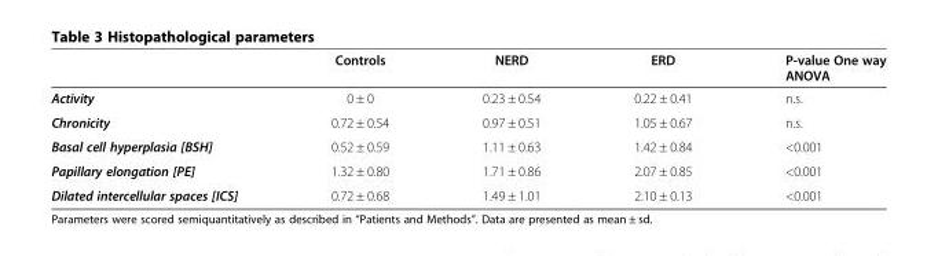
<table><thead><tr><td></td><td>Controls</td><td>NERD</td><td>ERD</td><td>P-value One way ANOVA</td></tr></thead><tbody><tr><td>Activity</td><td>0 ± 0</td><td>0.23 ± 0.54</td><td>0.22 ± 0.41</td><td>n.s.</td></tr><tr><td>Chronicity</td><td>0.72 ± 0.54</td><td>0.97 ± 0.51</td><td>1.05 ± 0.67</td><td>n.s.</td></tr><tr><td>Basal cell hyperplasia [BSH]</td><td>0.52 ± 0.59</td><td>1.11 ± 0.63</td><td>1.42 ± 0.84</td><td>&lt;0.001</td></tr><tr><td>Papillary elongation [PE]</td><td>1.32 ± 0.80</td><td>1.71 ± 0.86</td><td>2.07 ± 0.85</td><td>&lt;0.001</td></tr><tr><td>Dilated intercellular spaces [ICS]</td><td>0.72 ± 0.68</td><td>1.49 ± 1.01</td><td>2.10 ± 0.13</td><td>&lt;0.001</td></tr></tbody></table>